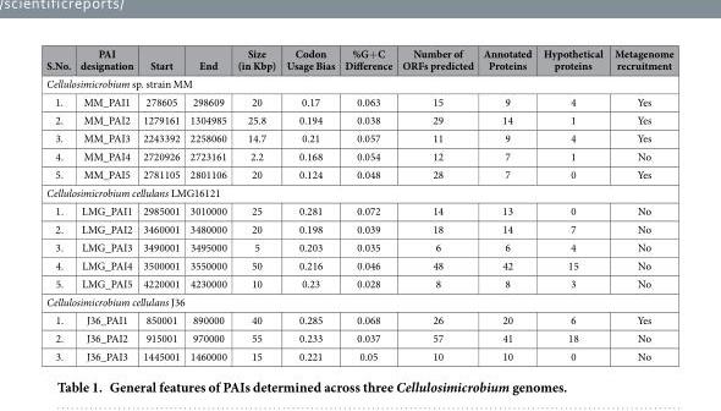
<table><thead><tr><td>S.No.</td><td>PAI designation</td><td>Start</td><td>End</td><td>Size (in Kbp)</td><td>Codon Usage Bias</td><td>%G+ C Difference</td><td>Number of ORFs predicted</td><td>Annotated Proteins</td><td>Hypothetical proteins</td><td>Metagenome recruitment</td></tr></thead><tbody><tr><td colspan="11">Cellulosimicrobium sp. strain MM</td></tr><tr><td>1.</td><td>MM_PAI1</td><td>278605</td><td>298609</td><td>20</td><td>0.17</td><td>0.063</td><td>15</td><td>9</td><td>4</td><td>Yes</td></tr><tr><td>2.</td><td>MM_PAI2</td><td>1279161</td><td>1304985</td><td>25.8</td><td>0.194</td><td>0.038</td><td>29</td><td>14</td><td>1</td><td>Yes</td></tr><tr><td>3.</td><td>MM_PAI3</td><td>2243392</td><td>2258060</td><td>14.7</td><td>0.21</td><td>0.057</td><td>11</td><td>9</td><td>4</td><td>Yes</td></tr><tr><td>4.</td><td>MM_PAI4</td><td>2720926</td><td>2723161</td><td>2.2</td><td>0.168</td><td>0.054</td><td>12</td><td>7</td><td>1</td><td>No</td></tr><tr><td>5.</td><td>MM_PAI5</td><td>2781105</td><td>2801106</td><td>20</td><td>0.124</td><td>0.048</td><td>28</td><td>7</td><td>0</td><td>Yes</td></tr><tr><td colspan="11">Cellulosimicrobium cellulans LMG16121</td></tr><tr><td>1.</td><td>LMG_PAI1</td><td>2985001</td><td>3010000</td><td>25</td><td>0.281</td><td>0.072</td><td>14</td><td>13</td><td>0</td><td>No</td></tr><tr><td>2.</td><td>LMG_PAI2</td><td>3460001</td><td>3480000</td><td>20</td><td>0.198</td><td>0.039</td><td>18</td><td>14</td><td>7</td><td>No</td></tr><tr><td>3.</td><td>LMG_PAI3</td><td>3490001</td><td>3495000</td><td>5</td><td>0.203</td><td>0.035</td><td>6</td><td>6</td><td>4</td><td>No</td></tr><tr><td>4.</td><td>LMG_PAI4</td><td>3500001</td><td>3550000</td><td>50</td><td>0.216</td><td>0.046</td><td>48</td><td>42</td><td>15</td><td>No</td></tr><tr><td>5.</td><td>LMG_PAI5</td><td>4220001</td><td>4230000</td><td>10</td><td>0.23</td><td>0.028</td><td>8</td><td>8</td><td>3</td><td>No</td></tr><tr><td colspan="11">Cellulosimicrobium cellulans J36</td></tr><tr><td>1.</td><td>J36_PAI1</td><td>850001</td><td>890000</td><td>40</td><td>0.285</td><td>0.068</td><td>26</td><td>20</td><td>6</td><td>Yes</td></tr><tr><td>2.</td><td>J36_PAI2</td><td>915001</td><td>970000</td><td>55</td><td>0.233</td><td>0.037</td><td>57</td><td>41</td><td>18</td><td>No</td></tr><tr><td>3.</td><td>J36_PAI3</td><td>1445001</td><td>1460000</td><td>15</td><td>0.221</td><td>0.05</td><td>10</td><td>10</td><td>0</td><td>No</td></tr></tbody></table>